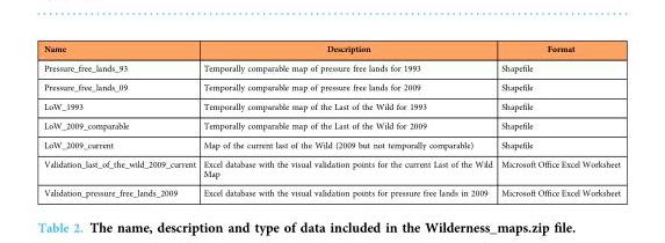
<table><thead><tr><td>Name</td><td>Description</td><td>Format</td></tr></thead><tbody><tr><td>Pressure_free_lands_93</td><td>Temporally comparable map of pressure free lands for 1993</td><td>Shapefile</td></tr><tr><td>Pressure_free_lands_09</td><td>Temporally comparable map of pressure free lands for 2009</td><td>Shapefile</td></tr><tr><td>LoW_1993</td><td>Temporally comparable map of the Last of the Wild for 1993</td><td>Shapefile</td></tr><tr><td>LoW_2009_comparable</td><td>Temporally comparable map of the Last of the Wild for 2009</td><td>Shapefile</td></tr><tr><td>LoW_2009_current</td><td>Map of the current last of the Wild (2009 but not temporally comparable)</td><td>Shapefile</td></tr><tr><td>Validation_last_of_the_wild_2009_current</td><td>Excel database with the visual validation points for the current Last of the Wild Map</td><td>Microsoft Office Excel Worksheet</td></tr><tr><td>Validation_pressure_free_lands_2009</td><td>Excel database with the visual validation points for pressure free lands in 2009</td><td>Microsoft Office Excel Worksheet</td></tr></tbody></table>